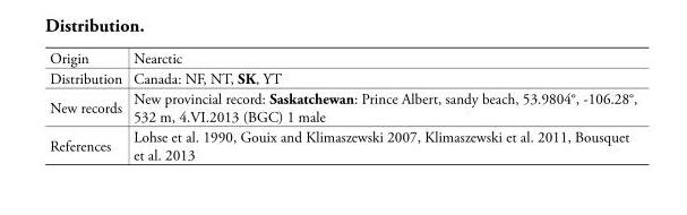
<table><tbody><tr><td>Origin</td><td>Nearctic</td></tr><tr><td>Distribution</td><td>Canada: NF, NT, SK, YT</td></tr><tr><td>New records</td><td>New provincial record: Saskatchewan: Prince Albert, sandy beach, 53.9804°, -106.28°, 532 m, 4.VI.2013 (BGC) 1 male</td></tr><tr><td>References</td><td>Lohse et al. 1990, Gouix and Klimaszewski 2007, Klimaszewski et al. 2011, Bousquet et al. 2013</td></tr></tbody></table>